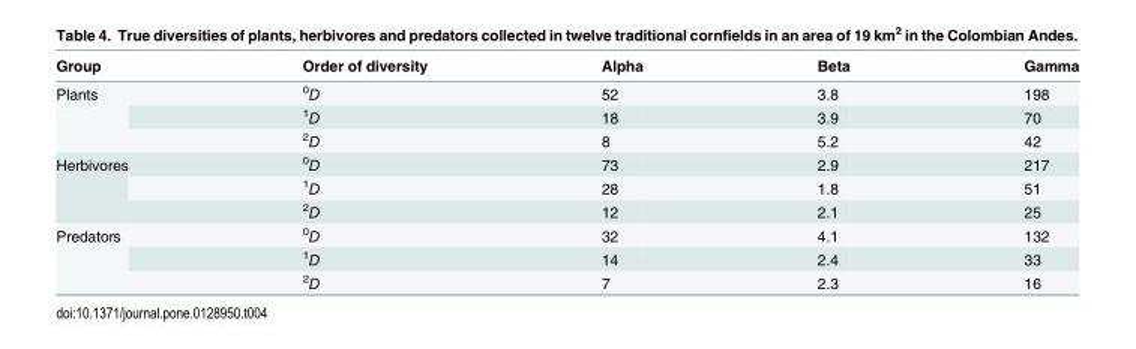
<table><thead><tr><td>Group</td><td>Order of diversity</td><td>Alpha</td><td>Beta</td><td>Gamma</td></tr></thead><tbody><tr><td rowspan="3">Plants</td><td><sup>0</sup>D</td><td>52</td><td>3.8</td><td>198</td></tr><tr><td><sup>1</sup>D</td><td>18</td><td>3.9</td><td>70</td></tr><tr><td><sup>2</sup>D</td><td>8</td><td>5.2</td><td>42</td></tr><tr><td rowspan="3">Herbivores</td><td><sup>0</sup>D</td><td>73</td><td>2.9</td><td>217</td></tr><tr><td><sup>1</sup>D</td><td>28</td><td>1.8</td><td>51</td></tr><tr><td><sup>2</sup>D</td><td>12</td><td>2.1</td><td>25</td></tr><tr><td rowspan="3">Predators</td><td><sup>0</sup>D</td><td>32</td><td>4.1</td><td>132</td></tr><tr><td><sup>1</sup>D</td><td>14</td><td>2.4</td><td>33</td></tr><tr><td><sup>2</sup>D</td><td>7</td><td>2.3</td><td>16</td></tr></tbody></table>